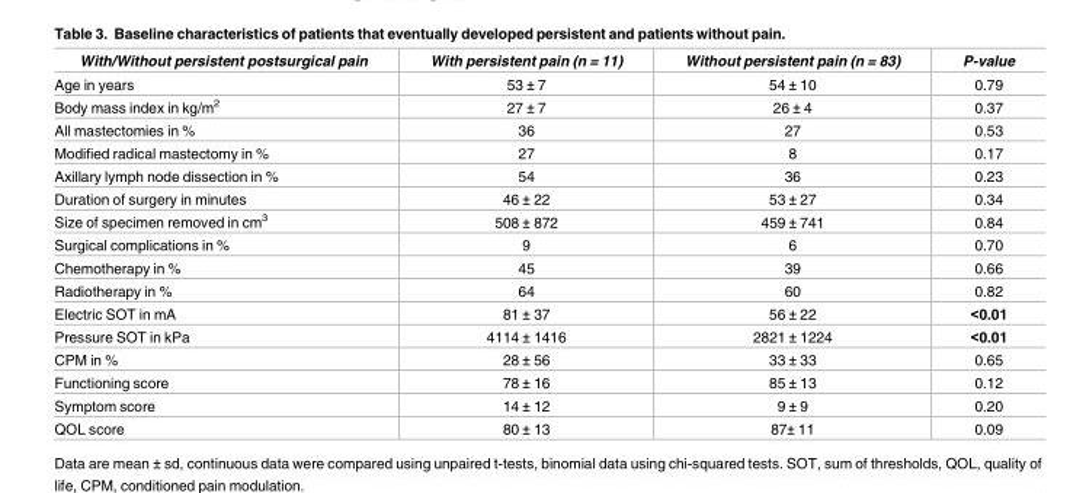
<table><thead><tr><td>With/Without persistent postsurgical pain</td><td>With persistent pain (n = 11)</td><td>Without persistent pain (n = 83)</td><td>P-value</td></tr></thead><tbody><tr><td>Age in years</td><td>53 ± 7</td><td>54 ± 10</td><td>0.79</td></tr><tr><td>Body mass index in kg/m<sup>2</sup></td><td>27 ± 7</td><td>26 ± 4</td><td>0.37</td></tr><tr><td>All mastectomies in %</td><td>36</td><td>27</td><td>0.53</td></tr><tr><td>Modified radical mastectomy in %</td><td>27</td><td>8</td><td>0.17</td></tr><tr><td>Axillary lymph node dissection in %</td><td>54</td><td>36</td><td>0.23</td></tr><tr><td>Duration of surgery in minutes</td><td>46 ± 22</td><td>53 ± 27</td><td>0.34</td></tr><tr><td>Size of specimen removed in cm<sup>3</sup></td><td>508 ± 872</td><td>459 ± 741</td><td>0.84</td></tr><tr><td>Surgical complications in %</td><td>9</td><td>6</td><td>0.70</td></tr><tr><td>Chemotherapy in %</td><td>45</td><td>39</td><td>0.66</td></tr><tr><td>Radiotherapy in %</td><td>64</td><td>60</td><td>0.82</td></tr><tr><td>Electric SOT in mA</td><td>81 ± 37</td><td>56 ± 22</td><td>&lt;0.01</td></tr><tr><td>Pressure SOT in kPa</td><td>4114 ± 1416</td><td>2821 ± 1224</td><td>&lt;0.01</td></tr><tr><td>CPM in %</td><td>28 ± 56</td><td>33 ± 33</td><td>0.65</td></tr><tr><td>Functioning score</td><td>78 ± 16</td><td>85 ± 13</td><td>0.12</td></tr><tr><td>Symptom score</td><td>14 ± 12</td><td>9 ± 9</td><td>0.20</td></tr><tr><td>QOL score</td><td>80 ± 13</td><td>87± 11</td><td>0.09</td></tr></tbody></table>